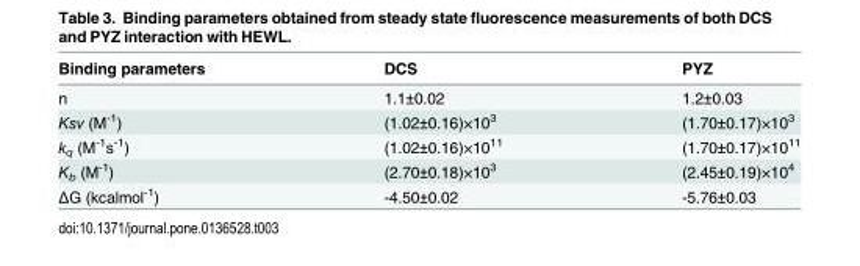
<table><thead><tr><td>Binding parameters</td><td>DCS</td><td>PYZ</td></tr></thead><tbody><tr><td>n</td><td>1.1±0.02</td><td>1.2±0.03</td></tr><tr><td>Ksv (M<sup>-1</sup>)</td><td>(1.02±0.16)×10<sup>3</sup></td><td>(1.70±0.17)×10<sup>3</sup></td></tr><tr><td>k<sub>q</sub> (M<sup>-1</sup>s<sup>-1</sup>)</td><td>(1.02±0.16)×10<sup>11</sup></td><td>(1.70±0.17)×10<sup>11</sup></td></tr><tr><td>K<sub>b</sub> (M<sup>-1</sup>)</td><td>(2.70±0.18)×10<sup>3</sup></td><td>(2.45±0.19)×10<sup>4</sup></td></tr><tr><td>ΔG (kcalmol<sup>-1</sup>)</td><td>-4.50±0.02</td><td>-5.76±0.03</td></tr></tbody></table>